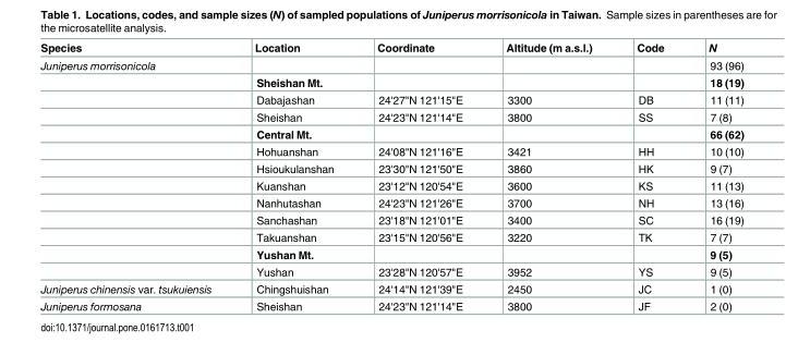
<table><thead><tr><td>Species</td><td>Location</td><td>Coordinate</td><td>Altitude (m a.s.l.)</td><td>Code</td><td>N</td></tr></thead><tbody><tr><td rowspan="13">Juniperus morrisonicola</td><td></td><td></td><td></td><td></td><td>93 (96)</td></tr><tr><td>Sheishan Mt.</td><td></td><td></td><td></td><td>18 (19)</td></tr><tr><td>Dabajashan</td><td>24&#x27;27&quot;N 121&#x27;15&quot;E</td><td>3300</td><td>DB</td><td>11 (11)</td></tr><tr><td>Sheishan</td><td>24&#x27;23&quot;N 121&#x27;14&quot;E</td><td>3800</td><td>SS</td><td>7 (8)</td></tr><tr><td>Central Mt.</td><td></td><td></td><td></td><td>66 (62)</td></tr><tr><td>Hohuanshan</td><td>24&#x27;08&quot;N 121&#x27;16&quot;E</td><td>3421</td><td>HH</td><td>10 (10)</td></tr><tr><td>Hsioukulanshan</td><td>23&#x27;30&quot;N 121&#x27;50&quot;E</td><td>3860</td><td>HK</td><td>9 (7)</td></tr><tr><td>Kuanshan</td><td>23&#x27;12&quot;N 120&#x27;54&quot;E</td><td>3600</td><td>KS</td><td>11 (13)</td></tr><tr><td>Nanhutashan</td><td>24&#x27;23&quot;N 121&#x27;26&quot;E</td><td>3700</td><td>NH</td><td>13 (16)</td></tr><tr><td>Sanchashan</td><td>23&#x27;18&quot;N 121&#x27;01&quot;E</td><td>3400</td><td>SC</td><td>16 (19)</td></tr><tr><td>Takuanshan</td><td>23&#x27;15&quot;N 120&#x27;56&quot;E</td><td>3220</td><td>TK</td><td>7 (7)</td></tr><tr><td>Yushan Mt.</td><td></td><td></td><td></td><td>9 (5)</td></tr><tr><td>Yushan</td><td>23&#x27;28&quot;N 120&#x27;57&quot;E</td><td>3952</td><td>YS</td><td>9 (5)</td></tr><tr><td>Juniperus chinensis var. tsukuiensis</td><td>Chingshuishan</td><td>24&#x27;14&quot;N 121&#x27;39&quot;E</td><td>2450</td><td>JC</td><td>1 (0)</td></tr><tr><td>Juniperus formosana</td><td>Sheishan</td><td>24&#x27;23&quot;N 121&#x27;14&quot;E</td><td>3800</td><td>JF</td><td>2 (0)</td></tr></tbody></table>